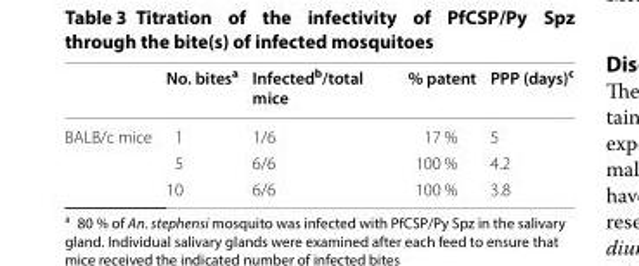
<table><thead><tr><td></td><td>No. bites<sup>a</sup></td><td>Infected<sup>b</sup>/total mice</td><td>% patent</td><td>PPP (days)<sup>c</sup></td></tr></thead><tbody><tr><td rowspan="3">BALB/c mice</td><td>1</td><td>1/6</td><td>17 %</td><td>5</td></tr><tr><td>5</td><td>6/6</td><td>100 %</td><td>4.2</td></tr><tr><td>10</td><td>6/6</td><td>100 %</td><td>3.8</td></tr></tbody></table>